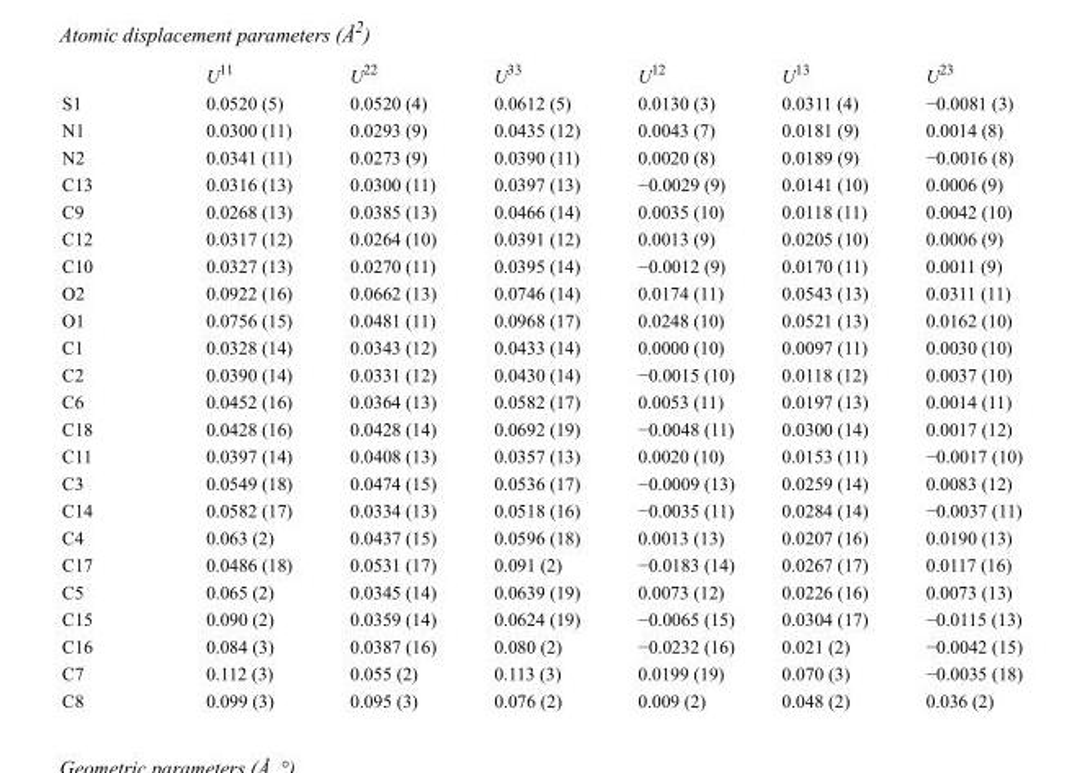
<table><thead><tr><td></td><td>U<sup>11</sup></td><td>U<sup>22</sup></td><td>U<sup>33</sup></td><td>U<sup>12</sup></td><td>U<sup>13</sup></td><td>U<sup>23</sup></td></tr></thead><tbody><tr><td>S1</td><td>0.0520 (5)</td><td>0.0520 (4)</td><td>0.0612 (5)</td><td>0.0130 (3)</td><td>0.0311 (4)</td><td>−0.0081 (3)</td></tr><tr><td>N1</td><td>0.0300 (11)</td><td>0.0293 (9)</td><td>0.0435 (12)</td><td>0.0043 (7)</td><td>0.0181 (9)</td><td>0.0014 (8)</td></tr><tr><td>N2</td><td>0.0341 (11)</td><td>0.0273 (9)</td><td>0.0390 (11)</td><td>0.0020 (8)</td><td>0.0189 (9)</td><td>−0.0016 (8)</td></tr><tr><td>C13</td><td>0.0316 (13)</td><td>0.0300 (11)</td><td>0.0397 (13)</td><td>−0.0029 (9)</td><td>0.0141 (10)</td><td>0.0006 (9)</td></tr><tr><td>C9</td><td>0.0268 (13)</td><td>0.0385 (13)</td><td>0.0466 (14)</td><td>0.0035 (10)</td><td>0.0118 (11)</td><td>0.0042 (10)</td></tr><tr><td>C12</td><td>0.0317 (12)</td><td>0.0264 (10)</td><td>0.0391 (12)</td><td>0.0013 (9)</td><td>0.0205 (10)</td><td>0.0006 (9)</td></tr><tr><td>C10</td><td>0.0327 (13)</td><td>0.0270 (11)</td><td>0.0395 (14)</td><td>−0.0012 (9)</td><td>0.0170 (11)</td><td>0.0011 (9)</td></tr><tr><td>O2</td><td>0.0922 (16)</td><td>0.0662 (13)</td><td>0.0746 (14)</td><td>0.0174 (11)</td><td>0.0543 (13)</td><td>0.0311 (11)</td></tr><tr><td>O1</td><td>0.0756 (15)</td><td>0.0481 (11)</td><td>0.0968 (17)</td><td>0.0248 (10)</td><td>0.0521 (13)</td><td>0.0162 (10)</td></tr><tr><td>C1</td><td>0.0328 (14)</td><td>0.0343 (12)</td><td>0.0433 (14)</td><td>0.0000 (10)</td><td>0.0097 (11)</td><td>0.0030 (10)</td></tr><tr><td>C2</td><td>0.0390 (14)</td><td>0.0331 (12)</td><td>0.0430 (14)</td><td>−0.0015 (10)</td><td>0.0118 (12)</td><td>0.0037 (10)</td></tr><tr><td>C6</td><td>0.0452 (16)</td><td>0.0364 (13)</td><td>0.0582 (17)</td><td>0.0053 (11)</td><td>0.0197 (13)</td><td>0.0014 (11)</td></tr><tr><td>C18</td><td>0.0428 (16)</td><td>0.0428 (14)</td><td>0.0692 (19)</td><td>−0.0048 (11)</td><td>0.0300 (14)</td><td>0.0017 (12)</td></tr><tr><td>C11</td><td>0.0397 (14)</td><td>0.0408 (13)</td><td>0.0357 (13)</td><td>0.0020 (10)</td><td>0.0153 (11)</td><td>−0.0017 (10)</td></tr><tr><td>C3</td><td>0.0549 (18)</td><td>0.0474 (15)</td><td>0.0536 (17)</td><td>−0.0009 (13)</td><td>0.0259 (14)</td><td>0.0083 (12)</td></tr><tr><td>C14</td><td>0.0582 (17)</td><td>0.0334 (13)</td><td>0.0518 (16)</td><td>−0.0035 (11)</td><td>0.0284 (14)</td><td>−0.0037 (11)</td></tr><tr><td>C4</td><td>0.063 (2)</td><td>0.0437 (15)</td><td>0.0596 (18)</td><td>0.0013 (13)</td><td>0.0207 (16)</td><td>0.0190 (13)</td></tr><tr><td>C17</td><td>0.0486 (18)</td><td>0.0531 (17)</td><td>0.091 (2)</td><td>−0.0183 (14)</td><td>0.0267 (17)</td><td>0.0117 (16)</td></tr><tr><td>C5</td><td>0.065 (2)</td><td>0.0345 (14)</td><td>0.0639 (19)</td><td>0.0073 (12)</td><td>0.0226 (16)</td><td>0.0073 (13)</td></tr><tr><td>C15</td><td>0.090 (2)</td><td>0.0359 (14)</td><td>0.0624 (19)</td><td>−0.0065 (15)</td><td>0.0304 (17)</td><td>−0.0115 (13)</td></tr><tr><td>C16</td><td>0.084 (3)</td><td>0.0387 (16)</td><td>0.080 (2)</td><td>−0.0232 (16)</td><td>0.021 (2)</td><td>−0.0042 (15)</td></tr><tr><td>C7</td><td>0.112 (3)</td><td>0.055 (2)</td><td>0.113 (3)</td><td>0.0199 (19)</td><td>0.070 (3)</td><td>−0.0035 (18)</td></tr><tr><td>C8</td><td>0.099 (3)</td><td>0.095 (3)</td><td>0.076 (2)</td><td>0.009 (2)</td><td>0.048 (2)</td><td>0.036 (2)</td></tr></tbody></table>